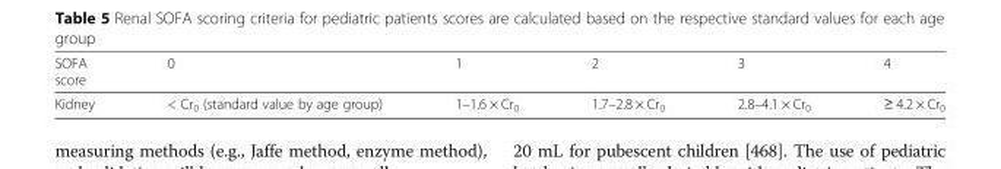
<table><thead><tr><td>SOFA score</td><td>0</td><td>1</td><td>2</td><td>3</td><td>4</td></tr></thead><tbody><tr><td>Kidney</td><td>&lt; Cr<sub>0</sub> (standard value by age group)</td><td>1–1.6 × Cr<sub>0</sub></td><td>1.7–2.8 × Cr<sub>0</sub></td><td>2.8–4.1 × Cr<sub>0</sub></td><td>≥ 4.2 × Cr<sub>0</sub></td></tr></tbody></table>